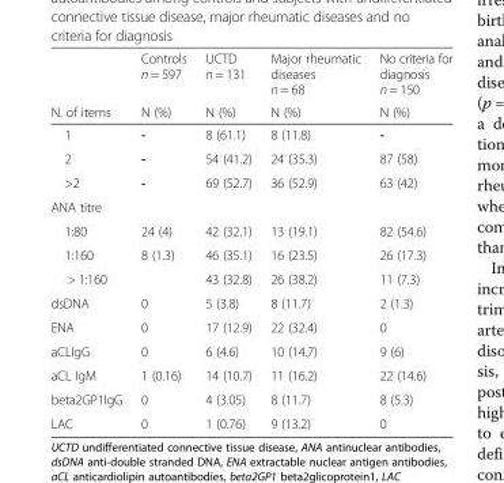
<table><thead><tr><td rowspan="2">N. of items</td><td rowspan="2">Controls n = 597 N (%)</td><td rowspan="2">UCTD n = 131 N (%)</td><td rowspan="2">Major rheumatic diseases n = 68 N (%)</td><td rowspan="2">No criteria for diagnosis n = 150 N (%)</td></tr><tr></tr></thead><tbody><tr><td>1</td><td>-</td><td>8 (61.1)</td><td>8 (11.8)</td><td>-</td></tr><tr><td>2</td><td>-</td><td>54 (41.2)</td><td>24 (35.3)</td><td>87 (58)</td></tr><tr><td>&gt;2</td><td>-</td><td>69 (52.7)</td><td>36 (52.9)</td><td>63 (42)</td></tr><tr><td colspan="5">ANA titre</td></tr><tr><td>1:80</td><td>24 (4)</td><td>42 (32.1)</td><td>13 (19.1)</td><td>82 (54.6)</td></tr><tr><td>1:160</td><td>8 (1.3)</td><td>46 (35.1)</td><td>16 (23.5)</td><td>26 (17.3)</td></tr><tr><td>&gt; 1:160</td><td></td><td>43 (32.8)</td><td>26 (38.2)</td><td>11 (7.3)</td></tr><tr><td>dsDNA</td><td>0</td><td>5 (3.8)</td><td>8 (11.7)</td><td>2 (1.3)</td></tr><tr><td>ENA</td><td>0</td><td>17 (12.9)</td><td>22 (32.4)</td><td>0</td></tr><tr><td>aCLIgG</td><td>0</td><td>6 (4.6)</td><td>10 (14.7)</td><td>9 (6)</td></tr><tr><td>aCL IgM</td><td>1 (0.16)</td><td>14 (10.7)</td><td>11 (16.2)</td><td>22 (14.6)</td></tr><tr><td>beta2GP1IgG</td><td>0</td><td>4 (3.05)</td><td>8 (11.7)</td><td>8 (5.3)</td></tr><tr><td>LAC</td><td>0</td><td>1 (0.76)</td><td>9 (13.2)</td><td>0</td></tr></tbody></table>